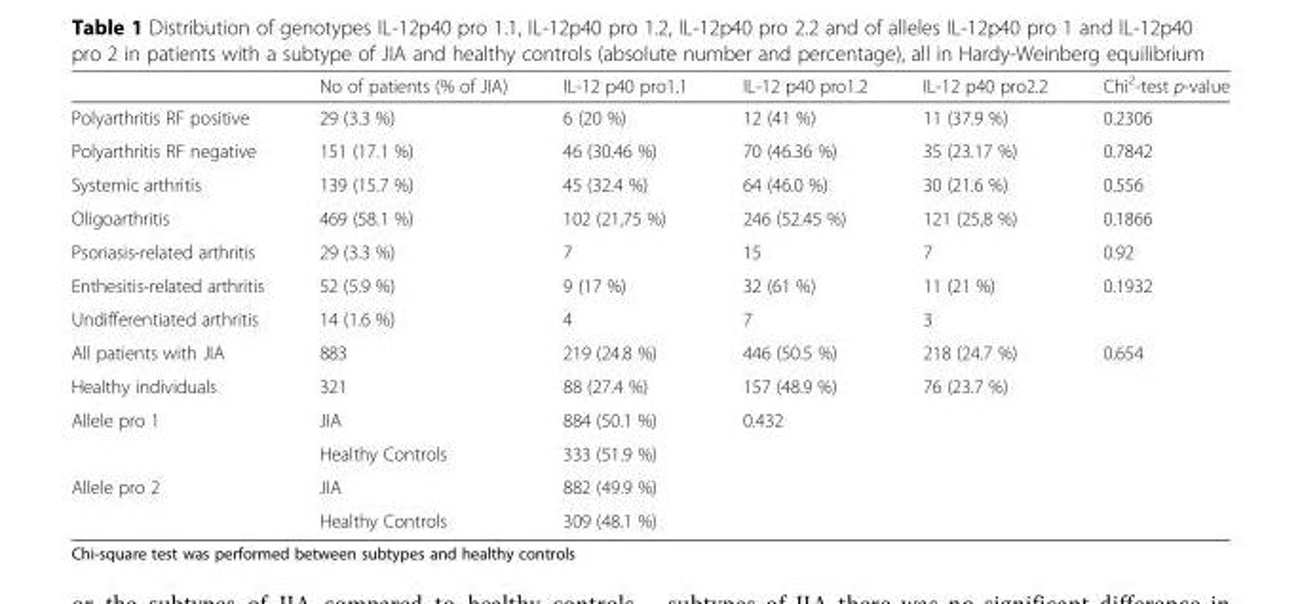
<table><thead><tr><td></td><td>No of patients (% of JIA)</td><td>IL-12 p40 pro1.1</td><td>IL-12 p40 pro1.2</td><td>IL-12 p40 pro2.2</td><td>Chi<sup>2</sup>-test p-value</td></tr></thead><tbody><tr><td>Polyarthritis RF positive</td><td>29 (3.3 %)</td><td>6 (20 %)</td><td>12 (41 %)</td><td>11 (37.9 %)</td><td>0.2306</td></tr><tr><td>Polyarthritis RF negative</td><td>151 (17.1 %)</td><td>46 (30.46 %)</td><td>70 (46.36 %)</td><td>35 (23.17 %)</td><td>0.7842</td></tr><tr><td>Systemic arthritis</td><td>139 (15.7 %)</td><td>45 (32.4 %)</td><td>64 (46.0 %)</td><td>30 (21.6 %)</td><td>0.556</td></tr><tr><td>Oligoarthritis</td><td>469 (58.1 %)</td><td>102 (21,75 %)</td><td>246 (52.45 %)</td><td>121 (25,8 %)</td><td>0.1866</td></tr><tr><td>Psoriasis-related arthritis</td><td>29 (3.3 %)</td><td>7</td><td>15</td><td>7</td><td>0.92</td></tr><tr><td>Enthesitis-related arthritis</td><td>52 (5.9 %)</td><td>9 (17 %)</td><td>32 (61 %)</td><td>11 (21 %)</td><td>0.1932</td></tr><tr><td>Undifferentiated arthritis</td><td>14 (1.6 %)</td><td>4</td><td>7</td><td>3</td><td></td></tr><tr><td>All patients with JIA</td><td>883</td><td>219 (24.8 %)</td><td>446 (50.5 %)</td><td>218 (24.7 %)</td><td>0.654</td></tr><tr><td>Healthy individuals</td><td>321</td><td>88 (27.4 %)</td><td>157 (48.9 %)</td><td>76 (23.7 %)</td><td></td></tr><tr><td rowspan="2">Allele pro 1</td><td>JIA</td><td>884 (50.1 %)</td><td rowspan="4" colspan="3">0.432</td></tr><tr><td>Healthy Controls</td><td>333 (51.9 %)</td></tr><tr><td rowspan="2">Allele pro 2</td><td>JIA</td><td>882 (49.9 %)</td></tr><tr><td>Healthy Controls</td><td>309 (48.1 %)</td></tr></tbody></table>